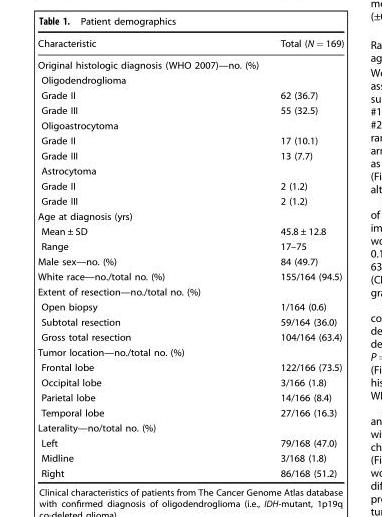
<table><thead><tr><td>Characteristic</td><td>Total (N = 169)</td></tr></thead><tbody><tr><td colspan="2">Original histologic diagnosis (WHO 2007)—no. (%)</td></tr><tr><td colspan="2">Oligodendroglioma</td></tr><tr><td>Grade II</td><td>62 (36.7)</td></tr><tr><td>Grade III</td><td>55 (32.5)</td></tr><tr><td colspan="2">Oligoastrocytoma</td></tr><tr><td>Grade II</td><td>17 (10.1)</td></tr><tr><td>Grade III</td><td>13 (7.7)</td></tr><tr><td colspan="2">Astrocytoma</td></tr><tr><td>Grade II</td><td>2 (1.2)</td></tr><tr><td>Grade III</td><td>2 (1.2)</td></tr><tr><td colspan="2">Age at diagnosis (yrs)</td></tr><tr><td>Mean ± SD</td><td>45.8 ± 12.8</td></tr><tr><td>Range</td><td>17–75</td></tr><tr><td>Male sex—no. (%)</td><td>84 (49.7)</td></tr><tr><td>White race—no./total no. (%)</td><td>155/164 (94.5)</td></tr><tr><td colspan="2">Extent of resection—no./total no. (%)</td></tr><tr><td>Open biopsy</td><td>1/164 (0.6)</td></tr><tr><td>Subtotal resection</td><td>59/164 (36.0)</td></tr><tr><td>Gross total resection</td><td>104/164 (63.4)</td></tr><tr><td colspan="2">Tumor location—no./total no. (%)</td></tr><tr><td>Frontal lobe</td><td>122/166 (73.5)</td></tr><tr><td>Occipital lobe</td><td>3/166 (1.8)</td></tr><tr><td>Parietal lobe</td><td>14/166 (8.4)</td></tr><tr><td>Temporal lobe</td><td>27/166 (16.3)</td></tr><tr><td colspan="2">Laterality—no/total no. (%)</td></tr><tr><td>Left</td><td>79/168 (47.0)</td></tr><tr><td>Midline</td><td>3/168 (1.8)</td></tr><tr><td>Right</td><td>86/168 (51.2)</td></tr></tbody></table>